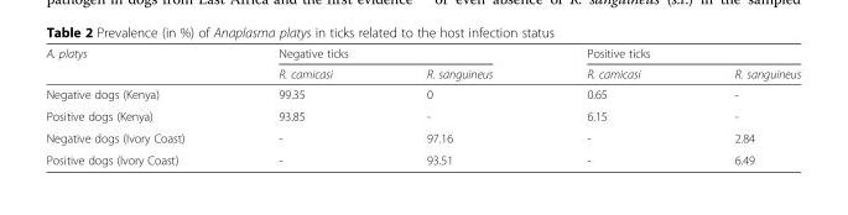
<table><thead><tr><td rowspan="2">A. platys</td><td colspan="2">Negative ticks</td><td colspan="2">Positive ticks</td></tr><tr><td>R. camicasi</td><td>R. sanguineus</td><td>R. camicasi</td><td>R. sanguineus</td></tr></thead><tbody><tr><td>Negative dogs (Kenya)</td><td>99.35</td><td>0</td><td>0.65</td><td>-</td></tr><tr><td>Positive dogs (Kenya)</td><td>93.85</td><td>-</td><td>6.15</td><td>-</td></tr><tr><td>Negative dogs (Ivory Coast)</td><td>-</td><td>97.16</td><td>-</td><td>2.84</td></tr><tr><td>Positive dogs (Ivory Coast)</td><td>-</td><td>93.51</td><td>-</td><td>6.49</td></tr></tbody></table>